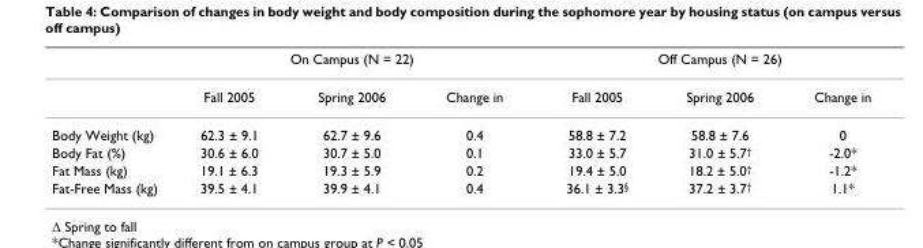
<table><thead><tr><td rowspan="2"></td><td colspan="3">On Campus (N = 22)</td><td colspan="3">Off Campus (N = 26)</td></tr><tr><td>Fall 2005</td><td>Spring 2006</td><td>Change in</td><td>Fall 2005</td><td>Spring 2006</td><td>Change in</td></tr></thead><tbody><tr><td>Body Weight (kg)</td><td>62.3 ± 9.1</td><td>62.7 ± 9.6</td><td>0.4</td><td>58.8 ± 7.2</td><td>58.8 ± 7.6</td><td>0</td></tr><tr><td>Body Fat (%)</td><td>30.6 ± 6.0</td><td>30.7 ± 5.0</td><td>0.1</td><td>33.0 ± 5.7</td><td>31.0 ± 5.7<sup>†</sup></td><td>-2.0*</td></tr><tr><td>Fat Mass (kg)</td><td>19.1 ± 6.3</td><td>19.3 ± 5.9</td><td>0.2</td><td>19.4 ± 5.0</td><td>18.2 ± 5.0<sup>†</sup></td><td>-1.2*</td></tr><tr><td>Fat-Free Mass (kg)</td><td>39.5 ± 4.1</td><td>39.9 ± 4.1</td><td>0.4</td><td>36.1 ± 3.3<sup>§</sup></td><td>37.2 ± 3.7<sup>†</sup></td><td>1.1*</td></tr></tbody></table>